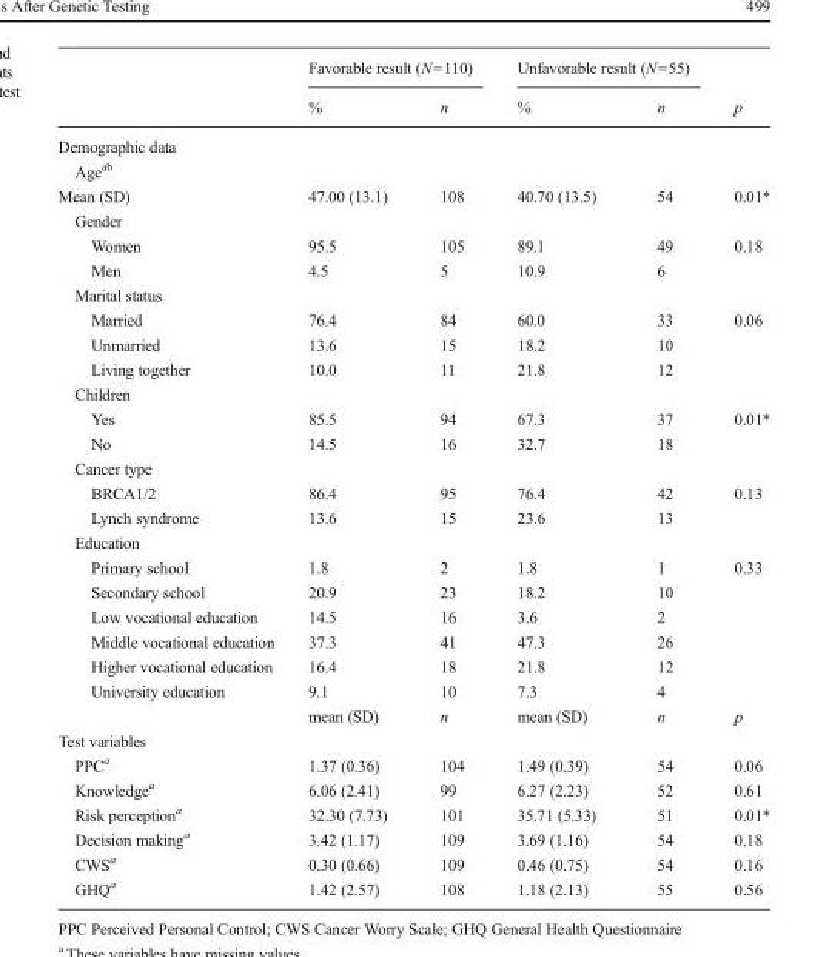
<table><thead><tr><td rowspan="2"></td><td colspan="2">Favorable result (N=110)</td><td colspan="2">Unfavorable result (N=55)</td><td rowspan="2">p</td></tr><tr><td>%</td><td>n</td><td>%</td><td>n</td></tr></thead><tbody><tr><td colspan="6">Demographic data</td></tr><tr><td colspan="6">Age<sup>ab</sup></td></tr><tr><td>Mean (SD)</td><td>47.00 (13.1)</td><td>108</td><td>40.70 (13.5)</td><td>54</td><td>0.01*</td></tr><tr><td colspan="6">Gender</td></tr><tr><td>Women</td><td>95.5</td><td>105</td><td>89.1</td><td>49</td><td>0.18</td></tr><tr><td>Men</td><td>4.5</td><td>5</td><td>10.9</td><td>6</td><td></td></tr><tr><td colspan="6">Marital status</td></tr><tr><td>Married</td><td>76.4</td><td>84</td><td>60.0</td><td>33</td><td>0.06</td></tr><tr><td>Unmarried</td><td>13.6</td><td>15</td><td>18.2</td><td>10</td><td></td></tr><tr><td>Living together</td><td>10.0</td><td>11</td><td>21.8</td><td>12</td><td></td></tr><tr><td colspan="6">Children</td></tr><tr><td>Yes</td><td>85.5</td><td>94</td><td>67.3</td><td>37</td><td>0.01*</td></tr><tr><td>No</td><td>14.5</td><td>16</td><td>32.7</td><td>18</td><td></td></tr><tr><td colspan="6">Cancer type</td></tr><tr><td>BRCA1/2</td><td>86.4</td><td>95</td><td>76.4</td><td>42</td><td>0.13</td></tr><tr><td>Lynch syndrome</td><td>13.6</td><td>15</td><td>23.6</td><td>13</td><td></td></tr><tr><td colspan="6">Education</td></tr><tr><td>Primary school</td><td>1.8</td><td>2</td><td>1.8</td><td>1</td><td>0.33</td></tr><tr><td>Secondary school</td><td>20.9</td><td>23</td><td>18.2</td><td>10</td><td></td></tr><tr><td>Low vocational education</td><td>14.5</td><td>16</td><td>3.6</td><td>2</td><td></td></tr><tr><td>Middle vocational education</td><td>37.3</td><td>41</td><td>47.3</td><td>26</td><td></td></tr><tr><td>Higher vocational education</td><td>16.4</td><td>18</td><td>21.8</td><td>12</td><td></td></tr><tr><td rowspan="2">University education</td><td>9.1</td><td>10</td><td>7.3</td><td>4</td><td></td></tr><tr><td>mean (SD)</td><td>n</td><td>mean (SD)</td><td>n</td><td>p</td></tr><tr><td colspan="6">Test variables</td></tr><tr><td>PPC<sup>a</sup></td><td>1.37 (0.36)</td><td>104</td><td>1.49 (0.39)</td><td>54</td><td>0.06</td></tr><tr><td>Knowledge<sup>a</sup></td><td>6.06 (2.41)</td><td>99</td><td>6.27 (2.23)</td><td>52</td><td>0.61</td></tr><tr><td>Risk perception<sup>a</sup></td><td>32.30 (7.73)</td><td>101</td><td>35.71 (5.33)</td><td>51</td><td>0.01*</td></tr><tr><td>Decision making<sup>a</sup></td><td>3.42 (1.17)</td><td>109</td><td>3.69 (1.16)</td><td>54</td><td>0.18</td></tr><tr><td>CWS<sup>a</sup></td><td>0.30 (0.66)</td><td>109</td><td>0.46 (0.75)</td><td>54</td><td>0.16</td></tr><tr><td>GHQ<sup>a</sup></td><td>1.42 (2.57)</td><td>108</td><td>1.18 (2.13)</td><td>55</td><td>0.56</td></tr></tbody></table>